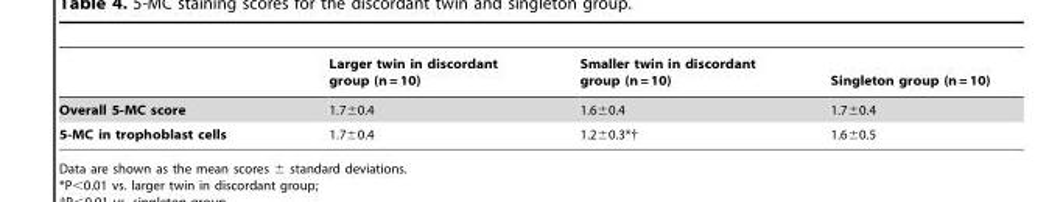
<table><thead><tr><td></td><td>Larger twin in discordant group (n = 10)</td><td>Smaller twin in discordant group (n = 10)</td><td>Singleton group (n = 10)</td></tr></thead><tbody><tr><td>Overall 5-MC score</td><td>1.7±0.4</td><td>1.6±0.4</td><td>1.7±0.4</td></tr><tr><td>5-MC in trophoblast cells</td><td>1.7±0.4</td><td>1.2±0.3*†</td><td>1.6±0.5</td></tr></tbody></table>